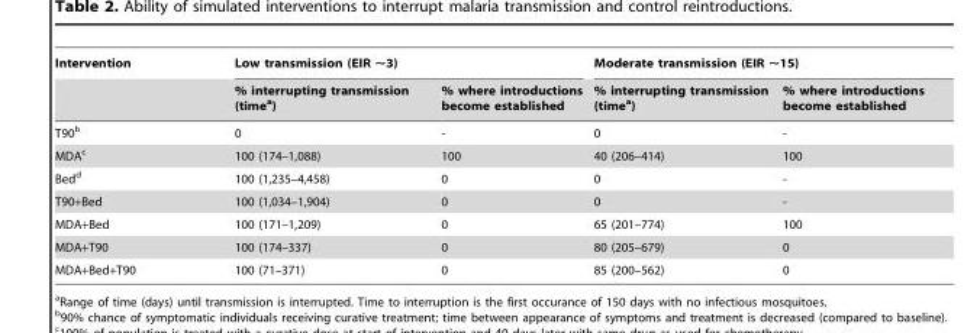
<table><thead><tr><td rowspan="2">Intervention</td><td colspan="2">Low transmission (EIR ∼3)</td><td colspan="2">Moderate transmission (EIR ∼15)</td></tr><tr><td>% interrupting transmission (time<sup>a</sup>)</td><td>% where introductions become established</td><td>% interrupting transmission (time<sup>a</sup>)</td><td>% where introductions become established</td></tr></thead><tbody><tr><td>T90<sup>b</sup></td><td>0</td><td>-</td><td>0</td><td>-</td></tr><tr><td>MDA<sup>c</sup></td><td>100 (174–1,088)</td><td>100</td><td>40 (206–414)</td><td>100</td></tr><tr><td>Bed<sup>d</sup></td><td>100 (1,235–4,458)</td><td>0</td><td>0</td><td>-</td></tr><tr><td>T90+Bed</td><td>100 (1,034–1,904)</td><td>0</td><td>0</td><td>-</td></tr><tr><td>MDA+Bed</td><td>100 (171–1,209)</td><td>0</td><td>65 (201–774)</td><td>100</td></tr><tr><td>MDA+T90</td><td>100 (174–337)</td><td>0</td><td>80 (205–679)</td><td>0</td></tr><tr><td>MDA+Bed+T90</td><td>100 (71–371)</td><td>0</td><td>85 (200–562)</td><td>0</td></tr></tbody></table>